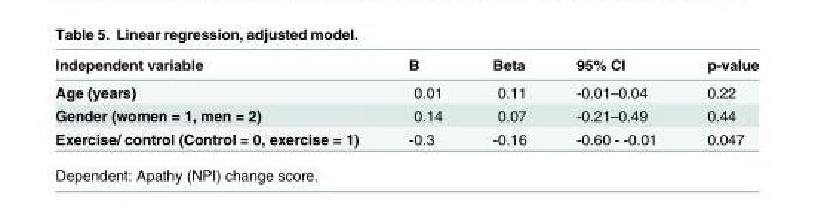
<table><thead><tr><td>Independent variable</td><td>B</td><td>Beta</td><td>95% CI</td><td>p-value</td></tr></thead><tbody><tr><td>Age (years)</td><td>0.01</td><td>0.11</td><td>-0.01–0.04</td><td>0.22</td></tr><tr><td>Gender (women = 1, men = 2)</td><td>0.14</td><td>0.07</td><td>-0.21–0.49</td><td>0.44</td></tr><tr><td>Exercise/ control (Control = 0, exercise = 1)</td><td>-0.3</td><td>-0.16</td><td>-0.60 - -0.01</td><td>0.047</td></tr></tbody></table>